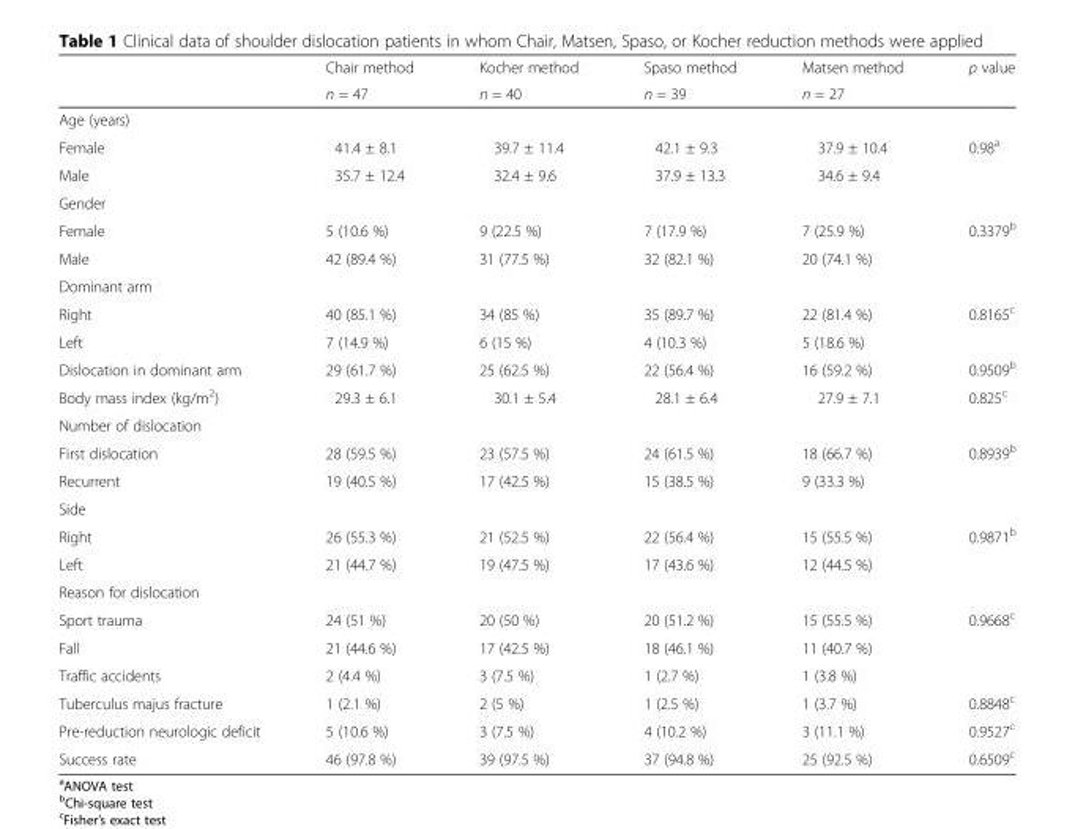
<table><thead><tr><td rowspan="2"></td><td rowspan="2">Chair method n = 47</td><td rowspan="2">Kocher method n = 40</td><td rowspan="2">Spaso method n = 39</td><td rowspan="2">Matsen method n = 27</td><td rowspan="2">p value</td></tr><tr></tr></thead><tbody><tr><td colspan="6">Age (years)</td></tr><tr><td>Female</td><td>41.4 ± 8.1</td><td>39.7 ± 11.4</td><td>42.1 ± 9.3</td><td>37.9 ± 10.4</td><td rowspan="2">0.98<sup>a</sup></td></tr><tr><td>Male</td><td>35.7 ± 12.4</td><td>32.4 ± 9.6</td><td>37.9 ± 13.3</td><td>34.6 ± 9.4</td></tr><tr><td colspan="6">Gender</td></tr><tr><td>Female</td><td>5 (10.6 %)</td><td>9 (22.5 %)</td><td>7 (17.9 %)</td><td>7 (25.9 %)</td><td rowspan="2">0.3379<sup>b</sup></td></tr><tr><td>Male</td><td>42 (89.4 %)</td><td>31 (77.5 %)</td><td>32 (82.1 %)</td><td>20 (74.1 %)</td></tr><tr><td colspan="6">Dominant arm</td></tr><tr><td>Right</td><td>40 (85.1 %)</td><td>34 (85 %)</td><td>35 (89.7 %)</td><td>22 (81.4 %)</td><td rowspan="2">0.8165<sup>c</sup></td></tr><tr><td>Left</td><td>7 (14.9 %)</td><td>6 (15 %)</td><td>4 (10.3 %)</td><td>5 (18.6 %)</td></tr><tr><td>Dislocation in dominant arm</td><td>29 (61.7 %)</td><td>25 (62.5 %)</td><td>22 (56.4 %)</td><td>16 (59.2 %)</td><td>0.9509<sup>b</sup></td></tr><tr><td>Body mass index (kg/m<sup>2</sup>)</td><td>29.3 ± 6.1</td><td>30.1 ± 5.4</td><td>28.1 ± 6.4</td><td>27.9 ± 7.1</td><td>0.825<sup>c</sup></td></tr><tr><td colspan="6">Number of dislocation</td></tr><tr><td>First dislocation</td><td>28 (59.5 %)</td><td>23 (57.5 %)</td><td>24 (61.5 %)</td><td>18 (66.7 %)</td><td rowspan="2">0.8939<sup>b</sup></td></tr><tr><td>Recurrent</td><td>19 (40.5 %)</td><td>17 (42.5 %)</td><td>15 (38.5 %)</td><td>9 (33.3 %)</td></tr><tr><td colspan="6">Side</td></tr><tr><td>Right</td><td>26 (55.3 %)</td><td>21 (52.5 %)</td><td>22 (56.4 %)</td><td>15 (55.5 %)</td><td rowspan="2">0.9871<sup>b</sup></td></tr><tr><td>Left</td><td>21 (44.7 %)</td><td>19 (47.5 %)</td><td>17 (43.6 %)</td><td>12 (44.5 %)</td></tr><tr><td colspan="6">Reason for dislocation</td></tr><tr><td>Sport trauma</td><td>24 (51 %)</td><td>20 (50 %)</td><td>20 (51.2 %)</td><td>15 (55.5 %)</td><td rowspan="2">0.9668<sup>c</sup></td></tr><tr><td>Fall</td><td>21 (44.6 %)</td><td>17 (42.5 %)</td><td>18 (46.1 %)</td><td>11 (40.7 %)</td></tr><tr><td>Traffic accidents</td><td>2 (4.4 %)</td><td>3 (7.5 %)</td><td>1 (2.7 %)</td><td>1 (3.8 %)</td><td></td></tr><tr><td>Tuberculus majus fracture</td><td>1 (2.1 %)</td><td>2 (5 %)</td><td>1 (2.5 %)</td><td>1 (3.7 %)</td><td>0.8848<sup>c</sup></td></tr><tr><td>Pre-reduction neurologic deficit</td><td>5 (10.6 %)</td><td>3 (7.5 %)</td><td>4 (10.2 %)</td><td>3 (11.1 %)</td><td>0.9527<sup>c</sup></td></tr><tr><td>Success rate</td><td>46 (97.8 %)</td><td>39 (97.5 %)</td><td>37 (94.8 %)</td><td>25 (92.5 %)</td><td>0.6509<sup>c</sup></td></tr></tbody></table>